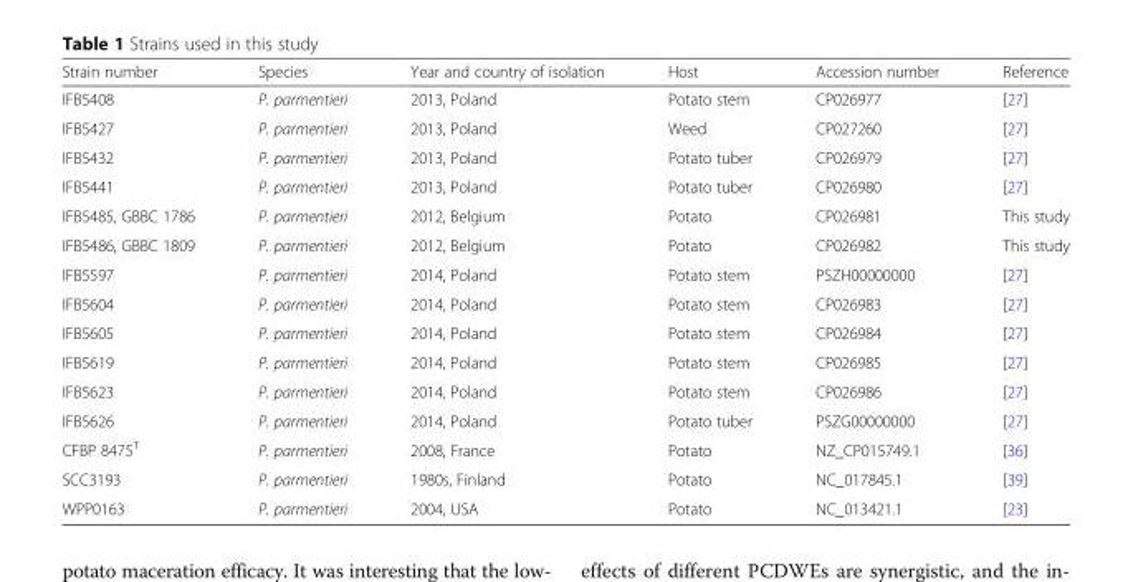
<table><thead><tr><td>Strain number</td><td>Species</td><td>Year and country of isolation</td><td>Host</td><td>Accession number</td><td>Reference</td></tr></thead><tbody><tr><td>IFB5408</td><td>P. parmentieri</td><td>2013, Poland</td><td>Potato stem</td><td>CP026977</td><td>[27]</td></tr><tr><td>IFB5427</td><td>P. parmentieri</td><td>2013, Poland</td><td>Weed</td><td>CP027260</td><td>[27]</td></tr><tr><td>IFB5432</td><td>P. parmentieri</td><td>2013, Poland</td><td>Potato tuber</td><td>CP026979</td><td>[27]</td></tr><tr><td>IFB5441</td><td>P. parmentieri</td><td>2013, Poland</td><td>Potato tuber</td><td>CP026980</td><td>[27]</td></tr><tr><td>IFB5485, GBBC 1786</td><td>P. parmentieri</td><td>2012, Belgium</td><td>Potato</td><td>CP026981</td><td>This study</td></tr><tr><td>IFB5486, GBBC 1809</td><td>P. parmentieri</td><td>2012, Belgium</td><td>Potato</td><td>CP026982</td><td>This study</td></tr><tr><td>IFB5597</td><td>P. parmentieri</td><td>2014, Poland</td><td>Potato stem</td><td>PSZH00000000</td><td>[27]</td></tr><tr><td>IFB5604</td><td>P. parmentieri</td><td>2014, Poland</td><td>Potato stem</td><td>CP026983</td><td>[27]</td></tr><tr><td>IFB5605</td><td>P. parmentieri</td><td>2014, Poland</td><td>Potato stem</td><td>CP026984</td><td>[27]</td></tr><tr><td>IFB5619</td><td>P. parmentieri</td><td>2014, Poland</td><td>Potato stem</td><td>CP026985</td><td>[27]</td></tr><tr><td>IFB5623</td><td>P. parmentieri</td><td>2014, Poland</td><td>Potato stem</td><td>CP026986</td><td>[27]</td></tr><tr><td>IFB5626</td><td>P. parmentieri</td><td>2014, Poland</td><td>Potato tuber</td><td>PSZG00000000</td><td>[27]</td></tr><tr><td>CFBP 8475<sup>T</sup></td><td>P. parmentieri</td><td>2008, France</td><td>Potato</td><td>NZ_CP015749.1</td><td>[36]</td></tr><tr><td>SCC3193</td><td>P. parmentieri</td><td>1980s, Finland</td><td>Potato</td><td>NC_017845.1</td><td>[39]</td></tr><tr><td>WPP0163</td><td>P. parmentieri</td><td>2004, USA</td><td>Potato</td><td>NC_013421.1</td><td>[23]</td></tr></tbody></table>